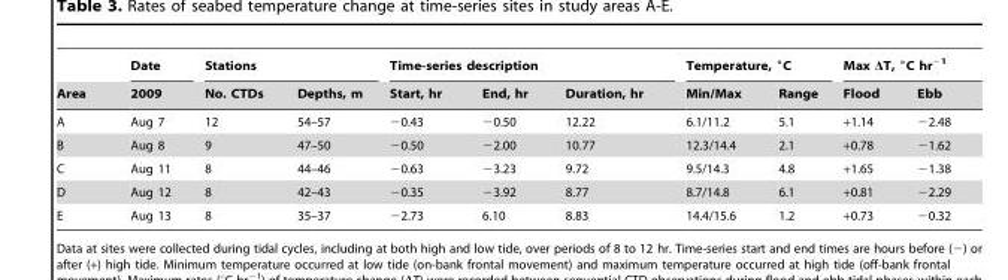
<table><thead><tr><td rowspan="2">Area</td><td rowspan="2">Date 2009</td><td colspan="2">Stations</td><td colspan="3">Time-series description</td><td colspan="2">Temperature, °C</td><td colspan="2">Max ΔT, °C hr<sup>−1</sup></td></tr><tr><td>No. CTDs</td><td>Depths, m</td><td>Start, hr</td><td>End, hr</td><td>Duration, hr</td><td>Min/Max</td><td>Range</td><td>Flood</td><td>Ebb</td></tr></thead><tbody><tr><td>A</td><td>Aug 7</td><td>12</td><td>54–57</td><td>−0.43</td><td>−0.50</td><td>12.22</td><td>6.1/11.2</td><td>5.1</td><td>+1.14</td><td>−2.48</td></tr><tr><td>B</td><td>Aug 8</td><td>9</td><td>47–50</td><td>−0.50</td><td>−2.00</td><td>10.77</td><td>12.3/14.4</td><td>2.1</td><td>+0.78</td><td>−1.62</td></tr><tr><td>C</td><td>Aug 11</td><td>8</td><td>44–46</td><td>−0.63</td><td>−3.23</td><td>9.72</td><td>9.5/14.3</td><td>4.8</td><td>+1.65</td><td>−1.38</td></tr><tr><td>D</td><td>Aug 12</td><td>8</td><td>42–43</td><td>−0.35</td><td>−3.92</td><td>8.77</td><td>8.7/14.8</td><td>6.1</td><td>+0.81</td><td>−2.29</td></tr><tr><td>E</td><td>Aug 13</td><td>8</td><td>35–37</td><td>−2.73</td><td>6.10</td><td>8.83</td><td>14.4/15.6</td><td>1.2</td><td>+0.73</td><td>−0.32</td></tr></tbody></table>